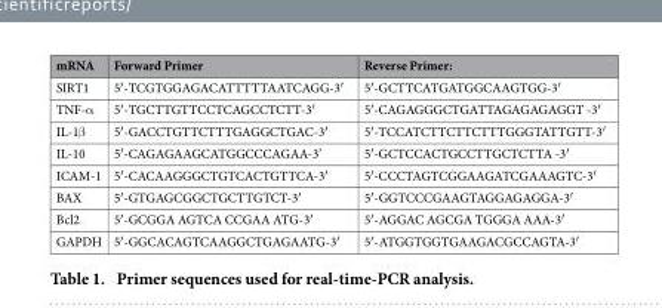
<table><thead><tr><td>mRNA</td><td>Forward Primer</td><td>Reverse Primer:</td></tr></thead><tbody><tr><td>SIRT1</td><td>5′ -TCGTGGAGACATTTTTAATCAGG-3′</td><td>5′ -GCTTCATGATGGCAAGTGG-3′</td></tr><tr><td>TNF-α</td><td>5′ -TGCTTGTTCCTCAGCCTCTT-3′</td><td>5′ -CAGAGGGCTGATTAGAGAGAGGT -3′</td></tr><tr><td>IL-1β</td><td>5′ -GACCTGTTCTTTGAGGCTGAC-3′</td><td>5′ -TCCATCTTCTTCTTTGGGTATTGTT-3′</td></tr><tr><td>IL-10</td><td>5′ -CAGAGAAGCATGGCCCAGAA-3’</td><td>5′ -GCTCCACTGCCTTGCTCTTA -3′</td></tr><tr><td>ICAM-1</td><td>5′ -CACAAGGGCTGTCACTGTTCA-3′</td><td>5′ -CCCTAGTCGGAAGATCGAAAGTC-3′</td></tr><tr><td>BAX</td><td>5′ -GTGAGCGGCTGCTTGTCT-3′</td><td>5′ -GGTCCCGAAGTAGGAGAGGA-3′</td></tr><tr><td>Bcl2</td><td>5′ -GCGGA AGTCA CCGAA ATG-3′</td><td>5′ -AGGAC AGCGA TGGGA AAA-3′</td></tr><tr><td>GAPDH</td><td>5′ -GGCACAGTCAAGGCTGAGAATG-3′</td><td>5′ -ATGGTGGTGAAGACGCCAGTA-3′</td></tr></tbody></table>